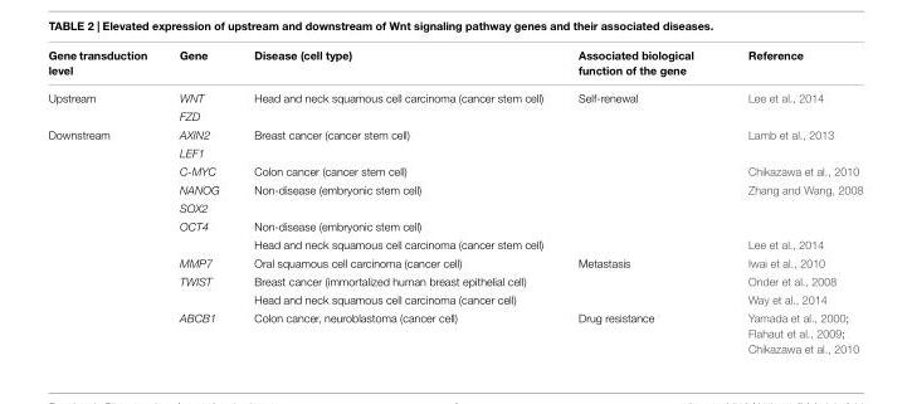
<table><thead><tr><td>Gene transduction level</td><td>Gene</td><td>Disease (cell type)</td><td>Associated biological function of the gene</td><td>Reference</td></tr></thead><tbody><tr><td rowspan="2">Upstream</td><td>WNT</td><td>Head and neck squamous cell carcinoma (cancer stem cell)</td><td>Self-renewal</td><td>Lee et al., 2014</td></tr><tr><td>FZD</td><td></td><td></td><td></td></tr><tr><td rowspan="11">Downstream</td><td>AXIN2</td><td>Breast cancer (cancer stem cell)</td><td></td><td>Lamb et al., 2013</td></tr><tr><td>LEF1</td><td></td><td></td><td></td></tr><tr><td>C-MYC</td><td>Colon cancer (cancer stem cell)</td><td></td><td>Chikazawa et al., 2010</td></tr><tr><td>NANOG</td><td>Non-disease (embryonic stem cell)</td><td></td><td>Zhang and Wang, 2008</td></tr><tr><td>SOX2</td><td></td><td></td><td></td></tr><tr><td>OCT4</td><td>Non-disease (embryonic stem cell)</td><td></td><td></td></tr><tr><td></td><td>Head and neck squamous cell carcinoma (cancer stem cell)</td><td></td><td>Lee et al., 2014</td></tr><tr><td>MMP7</td><td>Oral squamous cell carcinoma (cancer cell)</td><td>Metastasis</td><td>Iwai et al., 2010</td></tr><tr><td>TWIST</td><td>Breast cancer (immortalized human breast epithelial cell)</td><td></td><td>Onder et al., 2008</td></tr><tr><td></td><td>Head and neck squamous cell carcinoma (cancer cell)</td><td></td><td>Way et al., 2014</td></tr><tr><td>ABCB1</td><td>Colon cancer, neuroblastoma (cancer cell)</td><td>Drug resistance</td><td>Yamada et al., 2000; Flahaut et al., 2009; Chikazawa et al., 2010</td></tr></tbody></table>